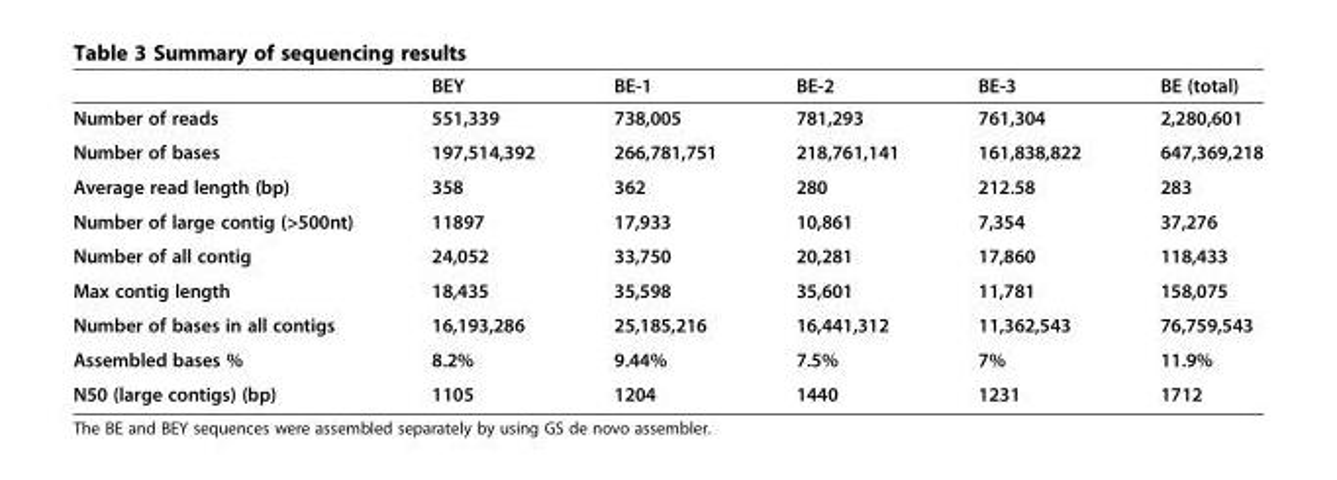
<table><thead><tr><td></td><td>BEY</td><td>BE-1</td><td>BE-2</td><td>BE-3</td><td>BE (total)</td></tr></thead><tbody><tr><td>Number of reads</td><td>551,339</td><td>738,005</td><td>781,293</td><td>761,304</td><td>2,280,601</td></tr><tr><td>Number of bases</td><td>197,514,392</td><td>266,781,751</td><td>218,761,141</td><td>161,838,822</td><td>647,369,218</td></tr><tr><td>Average read length (bp)</td><td>358</td><td>362</td><td>280</td><td>212.58</td><td>283</td></tr><tr><td>Number of large contig (&gt;500nt)</td><td>11897</td><td>17,933</td><td>10,861</td><td>7,354</td><td>37,276</td></tr><tr><td>Number of all contig</td><td>24,052</td><td>33,750</td><td>20,281</td><td>17,860</td><td>118,433</td></tr><tr><td>Max contig length</td><td>18,435</td><td>35,598</td><td>35,601</td><td>11,781</td><td>158,075</td></tr><tr><td>Number of bases in all contigs</td><td>16,193,286</td><td>25,185,216</td><td>16,441,312</td><td>11,362,543</td><td>76,759,543</td></tr><tr><td>Assembled bases %</td><td>8.2%</td><td>9.44%</td><td>7.5%</td><td>7%</td><td>11.9%</td></tr><tr><td>N50 (large contigs) (bp)</td><td>1105</td><td>1204</td><td>1440</td><td>1231</td><td>1712</td></tr></tbody></table>